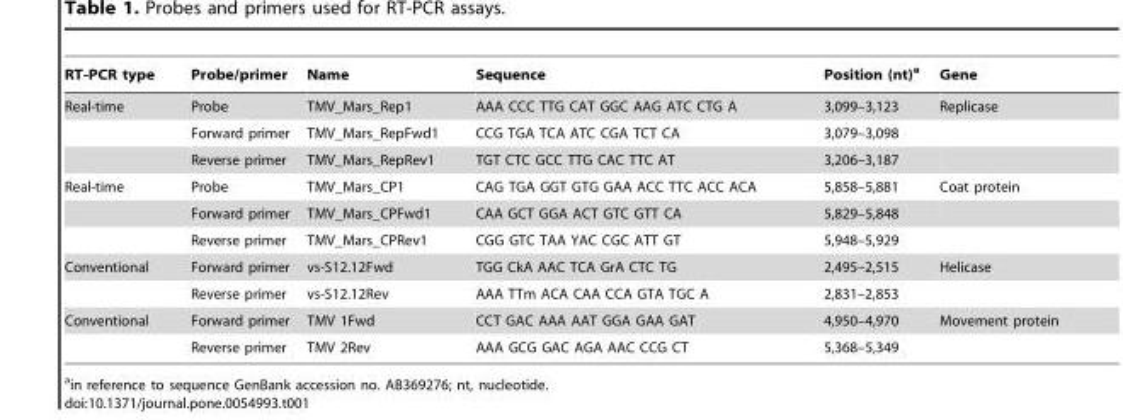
<table><thead><tr><td>RT-PCR type</td><td>Probe/primer</td><td>Name</td><td>Sequence</td><td>Position (nt)<sup>a</sup></td><td>Gene</td></tr></thead><tbody><tr><td rowspan="3">Real-time</td><td>Probe</td><td>TMV_Mars_Rep1</td><td>AAA CCC TTG CAT GGC AAG ATC CTG A</td><td>3,099–3,123</td><td>Replicase</td></tr><tr><td>Forward primer</td><td>TMV_Mars_RepFwd1</td><td>CCG TGA TCA ATC CGA TCT CA</td><td>3,079–3,098</td><td></td></tr><tr><td>Reverse primer</td><td>TMV_Mars_RepRev1</td><td>TGT CTC GCC TTG CAC TTC AT</td><td>3,206–3,187</td><td></td></tr><tr><td rowspan="3">Real-time</td><td>Probe</td><td>TMV_Mars_CP1</td><td>CAG TGA GGT GTG GAA ACC TTC ACC ACA</td><td>5,858–5,881</td><td>Coat protein</td></tr><tr><td>Forward primer</td><td>TMV_Mars_CPFwd1</td><td>CAA GCT GGA ACT GTC GTT CA</td><td>5,829–5,848</td><td></td></tr><tr><td>Reverse primer</td><td>TMV_Mars_CPRev1</td><td>CGG GTC TAA YAC CGC ATT GT</td><td>5,948–5,929</td><td></td></tr><tr><td rowspan="2">Conventional</td><td>Forward primer</td><td>vs-S12.12Fwd</td><td>TGG CkA AAC TCA GrA CTC TG</td><td>2,495–2,515</td><td>Helicase</td></tr><tr><td>Reverse primer</td><td>vs-S12.12Rev</td><td>AAA TTm ACA CAA CCA GTA TGC A</td><td>2,831–2,853</td><td></td></tr><tr><td rowspan="2">Conventional</td><td>Forward primer</td><td>TMV 1Fwd</td><td>CCT GAC AAA AAT GGA GAA GAT</td><td>4,950–4,970</td><td>Movement protein</td></tr><tr><td>Reverse primer</td><td>TMV 2Rev</td><td>AAA GCG GAC AGA AAC CCG CT</td><td>5,368–5,349</td><td></td></tr></tbody></table>